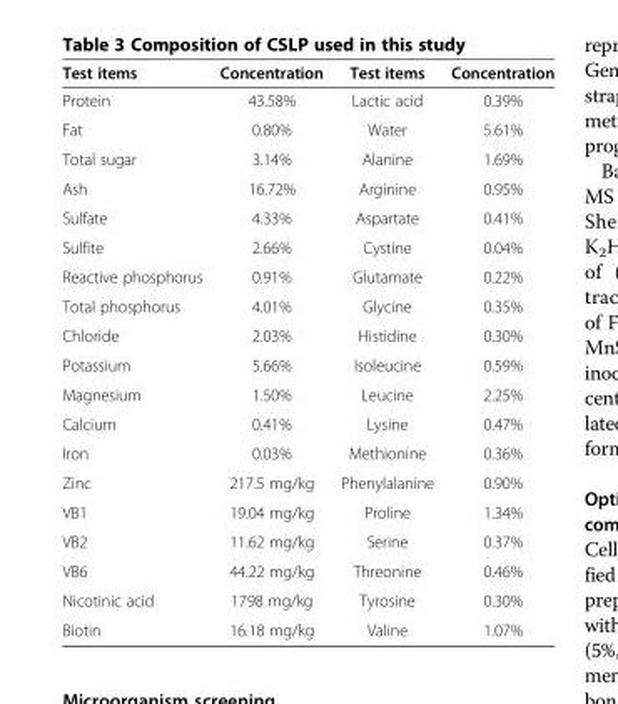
<table><thead><tr><td>Test items</td><td>Concentration</td><td>Test items</td><td>Concentration</td></tr></thead><tbody><tr><td>Protein</td><td>43.58%</td><td>Lactic acid</td><td>0.39%</td></tr><tr><td>Fat</td><td>0.80%</td><td>Water</td><td>5.61%</td></tr><tr><td>Total sugar</td><td>3.14%</td><td>Alanine</td><td>1.69%</td></tr><tr><td>Ash</td><td>16.72%</td><td>Arginine</td><td>0.95%</td></tr><tr><td>Sulfate</td><td>4.33%</td><td>Aspartate</td><td>0.41%</td></tr><tr><td>Sulfite</td><td>2.66%</td><td>Cystine</td><td>0.04%</td></tr><tr><td>Reactive phosphorus</td><td>0.91%</td><td>Glutamate</td><td>0.22%</td></tr><tr><td>Total phosphorus</td><td>4.01%</td><td>Glycine</td><td>0.35%</td></tr><tr><td>Chloride</td><td>2.03%</td><td>Histidine</td><td>0.30%</td></tr><tr><td>Potassium</td><td>5.66%</td><td>Isoleucine</td><td>0.59%</td></tr><tr><td>Magnesium</td><td>1.50%</td><td>Leucine</td><td>2.25%</td></tr><tr><td>Calcium</td><td>0.41%</td><td>Lysine</td><td>0.47%</td></tr><tr><td>Iron</td><td>0.03%</td><td>Methionine</td><td>0.36%</td></tr><tr><td>Zinc</td><td>217.5 mg/kg</td><td>Phenylalanine</td><td>0.90%</td></tr><tr><td>VB1</td><td>19.04 mg/kg</td><td>Proline</td><td>1.34%</td></tr><tr><td>VB2</td><td>11.62 mg/kg</td><td>Serine</td><td>0.37%</td></tr><tr><td>VB6</td><td>44.22 mg/kg</td><td>Threonine</td><td>0.46%</td></tr><tr><td>Nicotinic acid</td><td>1798 mg/kg</td><td>Tyrosine</td><td>0.30%</td></tr><tr><td>Biotin</td><td>16.18 mg/kg</td><td>Valine</td><td>1.07%</td></tr></tbody></table>